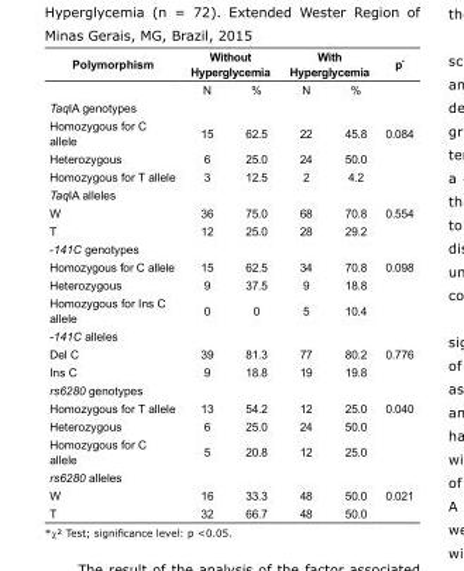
<table><tbody><tr><td rowspan="2">Polymorphism</td><td colspan="2">Without Hyperglycemia</td><td colspan="2">With Hyperglycemia</td><td>p*</td></tr><tr><td>N</td><td>%</td><td>N</td><td>%</td><td></td></tr><tr><td colspan="6">TaqIA genotypes</td></tr><tr><td>Homozygous for C allele</td><td>15</td><td>62.5</td><td>22</td><td>45.8</td><td>0.084</td></tr><tr><td>Heterozygous</td><td>6</td><td>25.0</td><td>24</td><td>50.0</td><td></td></tr><tr><td>Homozygous for T allele</td><td>3</td><td>12.5</td><td>2</td><td>4.2</td><td></td></tr><tr><td colspan="6">TaqIA alleles</td></tr><tr><td>W</td><td>36</td><td>75.0</td><td>68</td><td>70.8</td><td>0.554</td></tr><tr><td>T</td><td>12</td><td>25.0</td><td>28</td><td>29.2</td><td></td></tr><tr><td colspan="6">-141C genotypes</td></tr><tr><td>Homozygous for C allele</td><td>15</td><td>62.5</td><td>34</td><td>70.8</td><td>0.098</td></tr><tr><td>Heterozygous</td><td>9</td><td>37.5</td><td>9</td><td>18.8</td><td></td></tr><tr><td>Homozygous for Ins C allele</td><td>0</td><td>0</td><td>5</td><td>10.4</td><td></td></tr><tr><td colspan="6">-141C alleles</td></tr><tr><td>Del C</td><td>39</td><td>81.3</td><td>77</td><td>80.2</td><td>0.776</td></tr><tr><td>Ins C</td><td>9</td><td>18.8</td><td>19</td><td>19.8</td><td></td></tr><tr><td colspan="6">rs6280 genotypes</td></tr><tr><td>Homozygous for T allele</td><td>13</td><td>54.2</td><td>12</td><td>25.0</td><td>0.040</td></tr><tr><td>Heterozygous</td><td>6</td><td>25.0</td><td>24</td><td>50.0</td><td></td></tr><tr><td>Homozygous for C allele</td><td>5</td><td>20.8</td><td>12</td><td>25.0</td><td></td></tr><tr><td colspan="6">rs6280 alleles</td></tr><tr><td>W</td><td>16</td><td>33.3</td><td>48</td><td>50.0</td><td>0.021</td></tr><tr><td>T</td><td>32</td><td>66.7</td><td>48</td><td>50.0</td><td></td></tr></tbody></table>